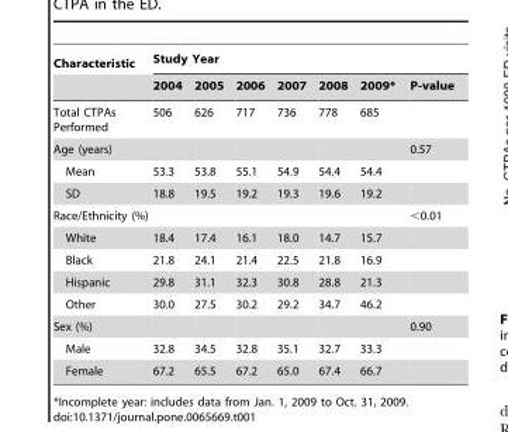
<table><thead><tr><td rowspan="2">Characteristic</td><td colspan="7">Study Year</td></tr><tr><td>2004</td><td>2005</td><td>2006</td><td>2007</td><td>2008</td><td>2009*</td><td>P-value</td></tr></thead><tbody><tr><td>Total CTPAs Performed</td><td>506</td><td>626</td><td>717</td><td>736</td><td>778</td><td>685</td><td></td></tr><tr><td>Age (years)</td><td></td><td></td><td></td><td></td><td></td><td></td><td>0.57</td></tr><tr><td>Mean</td><td>53.3</td><td>53.8</td><td>55.1</td><td>54.9</td><td>54.4</td><td>54.4</td><td></td></tr><tr><td>SD</td><td>18.8</td><td>19.5</td><td>19.2</td><td>19.3</td><td>19.6</td><td>19.2</td><td></td></tr><tr><td colspan="2">Race/Ethnicity (%)</td><td></td><td></td><td></td><td></td><td></td><td>&lt;0.01</td></tr><tr><td>White</td><td>18.4</td><td>17.4</td><td>16.1</td><td>18.0</td><td>14.7</td><td>15.7</td><td></td></tr><tr><td>Black</td><td>21.8</td><td>24.1</td><td>21.4</td><td>22.5</td><td>21.8</td><td>16.9</td><td></td></tr><tr><td>Hispanic</td><td>29.8</td><td>31.1</td><td>32.3</td><td>30.8</td><td>28.8</td><td>21.3</td><td></td></tr><tr><td>Other</td><td>30.0</td><td>27.5</td><td>30.2</td><td>29.2</td><td>34.7</td><td>46.2</td><td></td></tr><tr><td>Sex (%)</td><td></td><td></td><td></td><td></td><td></td><td></td><td>0.90</td></tr><tr><td>Male</td><td>32.8</td><td>34.5</td><td>32.8</td><td>35.1</td><td>32.7</td><td>33.3</td><td></td></tr><tr><td>Female</td><td>67.2</td><td>65.5</td><td>67.2</td><td>65.0</td><td>67.4</td><td>66.7</td><td></td></tr></tbody></table>